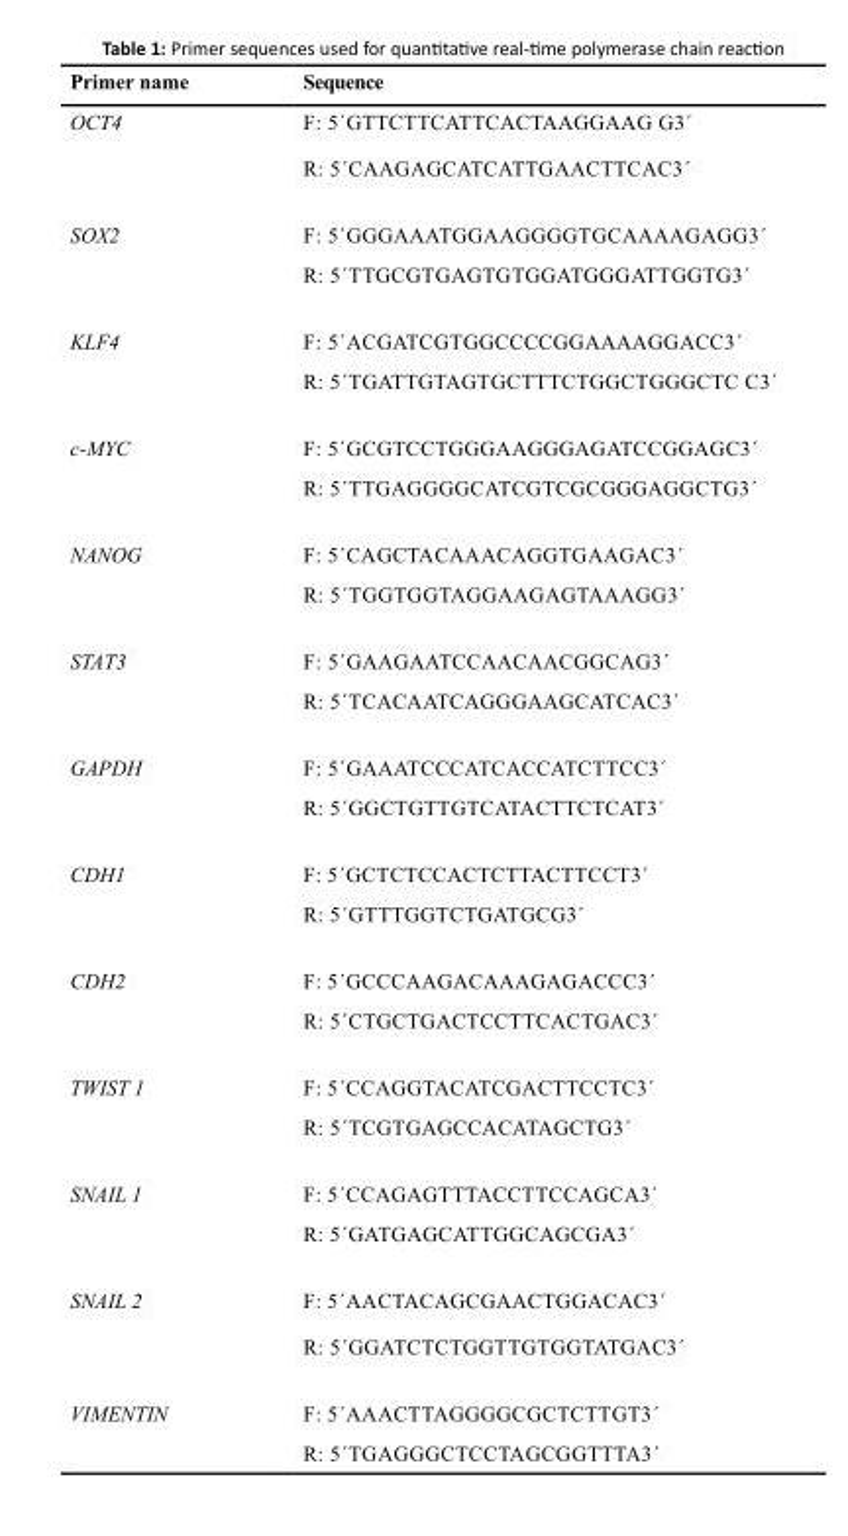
<table><thead><tr><td>Primer name</td><td>Sequence</td></tr></thead><tbody><tr><td rowspan="2">OCT4</td><td>F: 5´GTTCTTCATTCACTAAGGAAG G3´</td></tr><tr><td>R: 5´CAAGAGCATCATTGAACTTCAC3´</td></tr><tr><td rowspan="2">SOX2</td><td>F: 5´GGGAAATGGAAGGGGTGCAAAAGAGG3´</td></tr><tr><td>R: 5´TTGCGTGAGTGTGGATGGGATTGGTG3´</td></tr><tr><td rowspan="2">KLF4</td><td>F: 5´ACGATCGTGGCCCCGGAAAAGGACC3´</td></tr><tr><td>R: 5´TGATTGTAGTGCTTTCTGGCTGGGCTC C3´</td></tr><tr><td rowspan="2">c-MYC</td><td>F: 5´GCGTCCTGGGAAGGGAGATCCGGAGC3´</td></tr><tr><td>R: 5´TTGAGGGGCATCGTCGCGGGAGGCTG3´</td></tr><tr><td rowspan="2">NANOG</td><td>F: 5´CAGCTACAAACAGGTGAAGAC3´</td></tr><tr><td>R: 5´TGGTGGTAGGAAGAGTAAAGG3´</td></tr><tr><td rowspan="2">STAT3</td><td>F: 5´GAAGAATCCAACAACGGCAG3´</td></tr><tr><td>R: 5´TCACAATCAGGGAAGCATCAC3´</td></tr><tr><td rowspan="2">GAPDH</td><td>F: 5´GAAATCCCATCACCATCTTCC3´</td></tr><tr><td>R: 5´GGCTGTTGTCATACTTCTCAT3´</td></tr><tr><td rowspan="2">CDH1</td><td>F: 5´GCTCTCCACTCTTACTTCCT3´</td></tr><tr><td>R: 5´GTTTGGTCTGATGCG3´</td></tr><tr><td rowspan="2">CDH2</td><td>F: 5´GCCCAAGACAAAGAGACCC3´</td></tr><tr><td>R: 5´CTGCTGACTCCTTCACTGAC3´</td></tr><tr><td rowspan="2">TWIST 1</td><td>F: 5´CCAGGTACATCGACTTCCTC3´</td></tr><tr><td>R: 5´TCGTGAGCCACATAGCTG3´</td></tr><tr><td rowspan="2">SNAIL 1</td><td>F: 5´CCAGAGTTTACCTTCCAGCA3´</td></tr><tr><td>R: 5´GATGAGCATTGGCAGCGA3´</td></tr><tr><td rowspan="2">SNAIL 2</td><td>F: 5´AACTACAGCGAACTGGACAC3´</td></tr><tr><td>R: 5´GGATCTCTGGTTGTGGTATGAC3´</td></tr><tr><td rowspan="2">VIMENTIN</td><td>F: 5´AAACTTAGGGGCGCTCTTGT3´</td></tr><tr><td>R: 5´TGAGGGCTCCTAGCGGTTTA3´</td></tr></tbody></table>